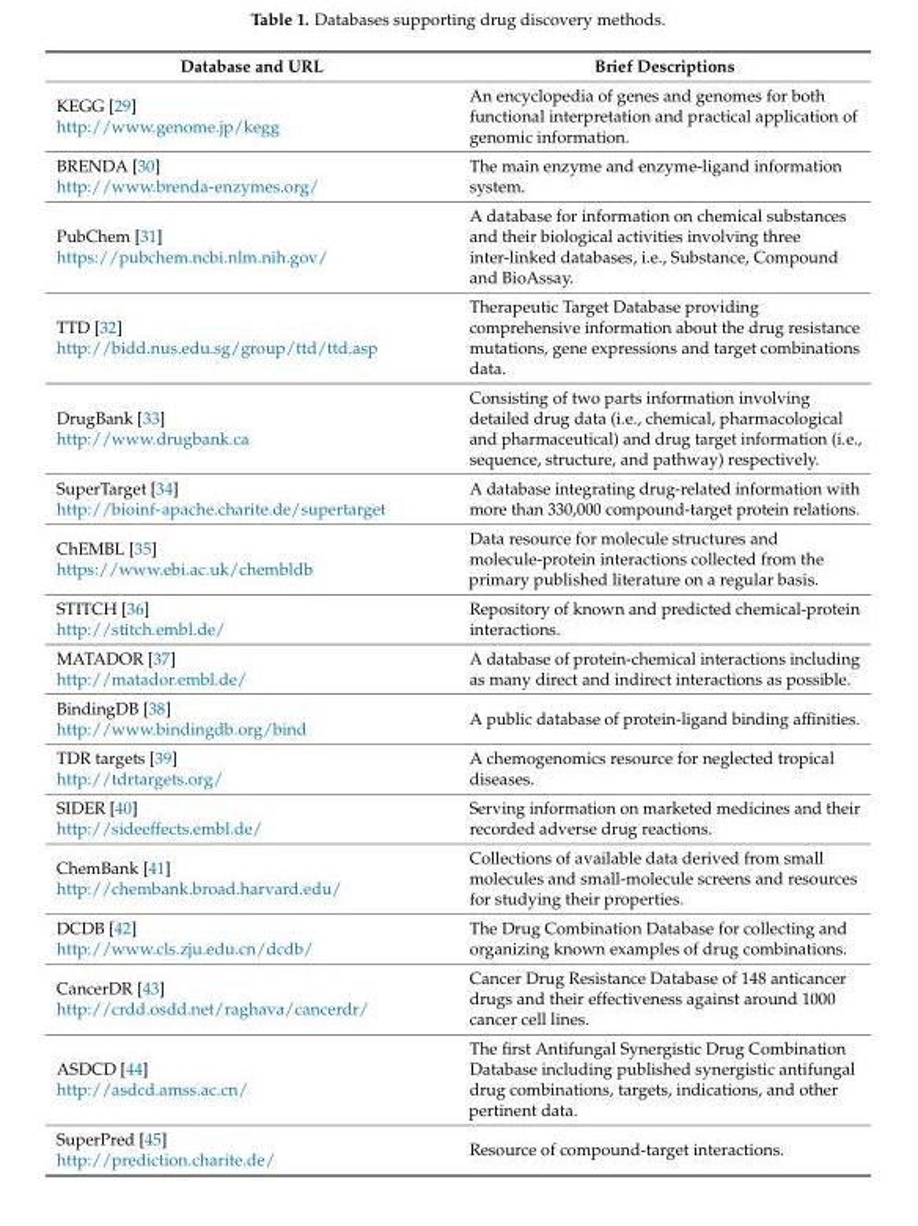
<table><thead><tr><td>Database and URL</td><td>Brief Descriptions</td></tr></thead><tbody><tr><td>KEGG [29] http://www.genome.jp/kegg</td><td>An encyclopedia of genes and genomes for both functional interpretation and practical application of genomic information.</td></tr><tr><td>BRENDA [30] http://www.brenda-enzymes.org/</td><td>The main enzyme and enzyme-ligand information system.</td></tr><tr><td>PubChem [31] https://pubchem.ncbi.nlm.nih.gov/</td><td>A database for information on chemical substances and their biological activities involving three inter-linked databases, i.e., Substance, Compound and BioAssay.</td></tr><tr><td>TTD [32] http://bidd.nus.edu.sg/group/ttd/ttd.asp</td><td>Therapeutic Target Database providing comprehensive information about the drug resistance mutations, gene expressions and target combinations data.</td></tr><tr><td>DrugBank [33] http://www.drugbank.ca</td><td>Consisting of two parts information involving detailed drug data (i.e., chemical, pharmacological and pharmaceutical) and drug target information (i.e., sequence, structure, and pathway) respectively.</td></tr><tr><td>SuperTarget [34] http://bioinf-apache.charite.de/supertarget</td><td>A database integrating drug-related information with more than 330,000 compound-target protein relations.</td></tr><tr><td>ChEMBL [35] https://www.ebi.ac.uk/chembldb</td><td>Data resource for molecule structures and molecule-protein interactions collected from the primary published literature on a regular basis.</td></tr><tr><td>STITCH [36] http://stitch.embl.de/</td><td>Repository of known and predicted chemical-protein interactions.</td></tr><tr><td>MATADOR [37] http://matador.embl.de/</td><td>A database of protein-chemical interactions including as many direct and indirect interactions as possible.</td></tr><tr><td>BindingDB [38] http://www.bindingdb.org/bind</td><td>A public database of protein-ligand binding affinities.</td></tr><tr><td>TDR targets [39] http://tdrtargets.org/</td><td>A chemogenomics resource for neglected tropical diseases.</td></tr><tr><td>SIDER [40] http://sideeffects.embl.de/</td><td>Serving information on marketed medicines and their recorded adverse drug reactions.</td></tr><tr><td>ChemBank [41] http://chembank.broad.harvard.edu/</td><td>Collections of available data derived from small molecules and small-molecule screens and resources for studying their properties.</td></tr><tr><td>DCDB [42] http://www.cls.zju.edu.cn/dcdb/</td><td>The Drug Combination Database for collecting and organizing known examples of drug combinations.</td></tr><tr><td>CancerDR [43] http://crdd.osdd.net/raghava/cancerdr/</td><td>Cancer Drug Resistance Database of 148 anticancer drugs and their effectiveness against around 1000 cancer cell lines.</td></tr><tr><td>ASDCD [44] http://asdcd.amss.ac.cn/</td><td>The first Antifungal Synergistic Drug Combination Database including published synergistic antifungal drug combinations, targets, indications, and other pertinent data.</td></tr><tr><td>SuperPred [45] http://prediction.charite.de/</td><td>Resource of compound-target interactions.</td></tr></tbody></table>